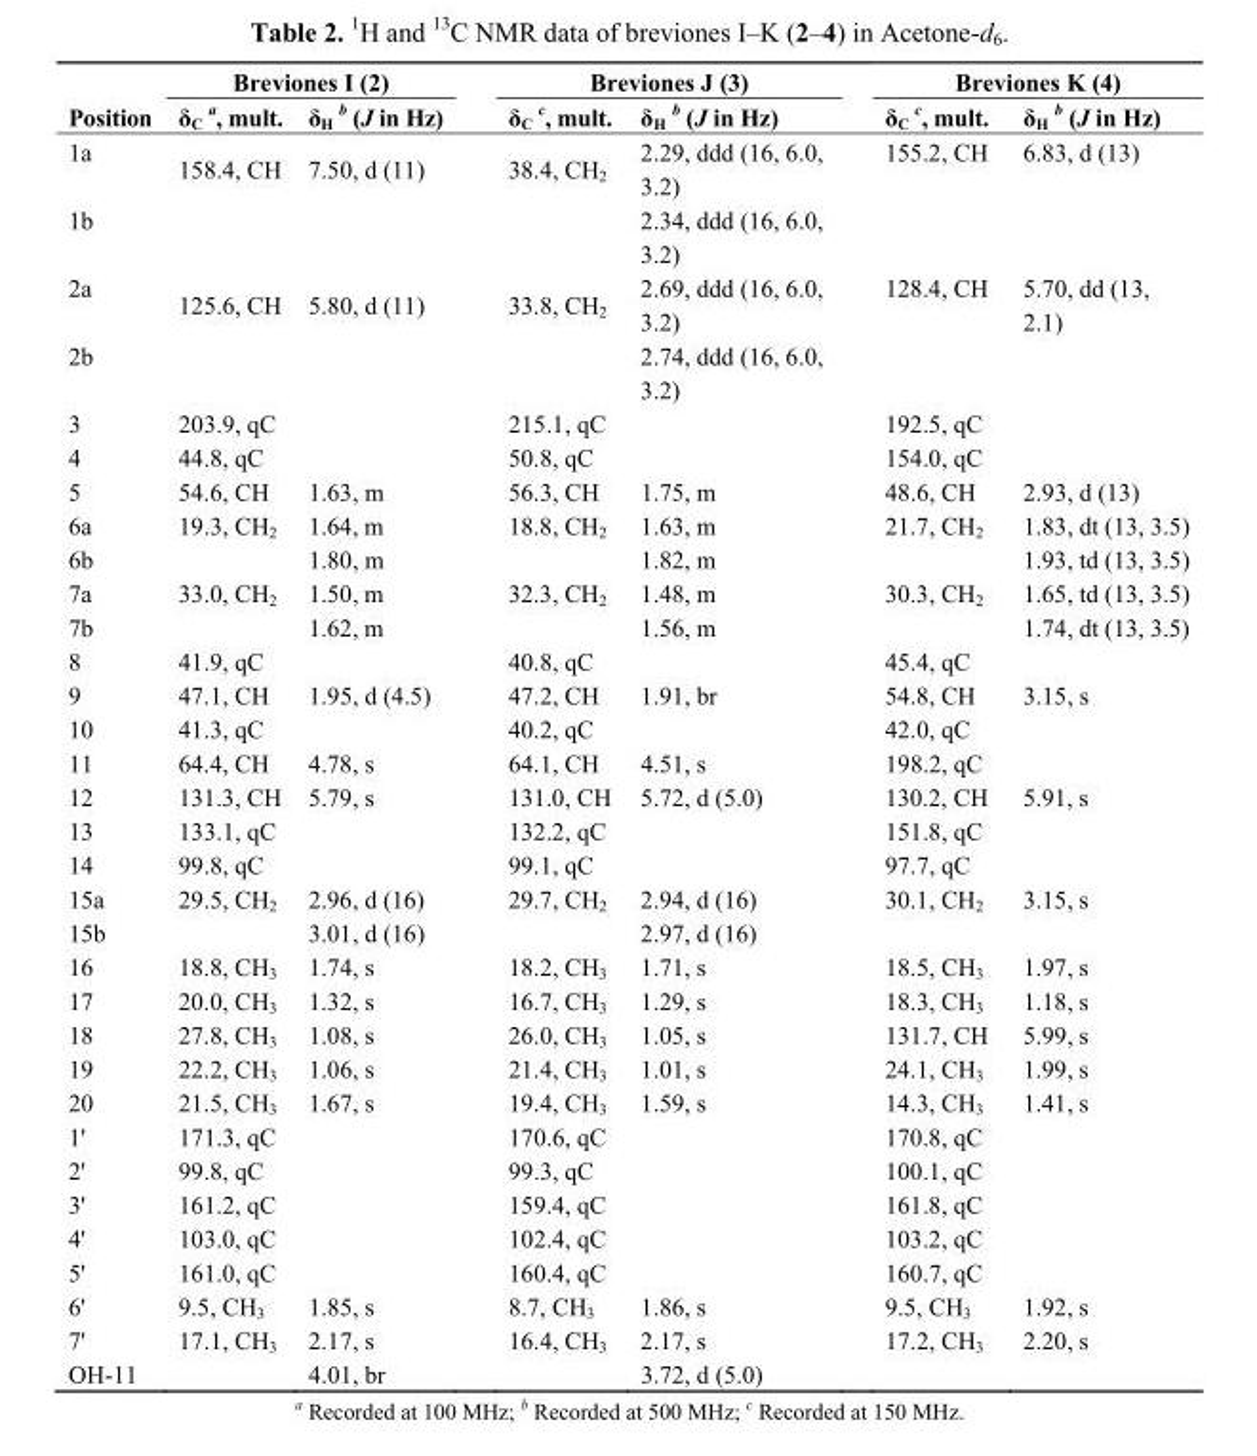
<table><thead><tr><td rowspan="2">Position</td><td colspan="2">Breviones I (2)</td><td colspan="2">Breviones J (3)</td><td colspan="2">Breviones K (4)</td></tr><tr><td>δ<sub>C</sub> <sup>a</sup>, mult.</td><td>δ<sub>H</sub> <sup>b</sup> (J in Hz)</td><td>δ<sub>C</sub> <sup>c</sup>, mult.</td><td>δ<sub>H</sub> <sup>b</sup> (J in Hz)</td><td>δ<sub>C</sub> <sup>c</sup>, mult.</td><td>δ<sub>H</sub> <sup>b</sup> (J in Hz)</td></tr></thead><tbody><tr><td>1a</td><td>158.4, CH</td><td>7.50, d (11)</td><td>38.4, CH<sub>2</sub></td><td>2.29, ddd (16, 6.0, 3.2)</td><td>155.2, CH</td><td>6.83, d (13)</td></tr><tr><td>1b</td><td></td><td></td><td></td><td>2.34, ddd (16, 6.0, 3.2)</td><td></td><td></td></tr><tr><td>2a</td><td>125.6, CH</td><td>5.80, d (11)</td><td>33.8, CH<sub>2</sub></td><td>2.69, ddd (16, 6.0, 3.2)</td><td>128.4, CH</td><td>5.70, dd (13, 2.1)</td></tr><tr><td>2b</td><td></td><td></td><td></td><td>2.74, ddd (16, 6.0, 3.2)</td><td></td><td></td></tr><tr><td>3</td><td>203.9, qC</td><td></td><td>215.1, qC</td><td></td><td>192.5, qC</td><td></td></tr><tr><td>4</td><td>44.8, qC</td><td></td><td>50.8, qC</td><td></td><td>154.0, qC</td><td></td></tr><tr><td>5</td><td>54.6, CH</td><td>1.63, m</td><td>56.3, CH</td><td>1.75, m</td><td>48.6, CH</td><td>2.93, d (13)</td></tr><tr><td>6a</td><td>19.3, CH<sub>2</sub></td><td>1.64, m</td><td>18.8, CH<sub>2</sub></td><td>1.63, m</td><td>21.7, CH<sub>2</sub></td><td>1.83, dt (13, 3.5)</td></tr><tr><td>6b</td><td></td><td>1.80, m</td><td></td><td>1.82, m</td><td></td><td>1.93, td (13, 3.5)</td></tr><tr><td>7a</td><td>33.0, CH<sub>2</sub></td><td>1.50, m</td><td>32.3, CH<sub>2</sub></td><td>1.48, m</td><td>30.3, CH<sub>2</sub></td><td>1.65, td (13, 3.5)</td></tr><tr><td>7b</td><td></td><td>1.62, m</td><td></td><td>1.56, m</td><td></td><td>1.74, dt (13, 3.5)</td></tr><tr><td>8</td><td>41.9, qC</td><td></td><td>40.8, qC</td><td></td><td>45.4, qC</td><td></td></tr><tr><td>9</td><td>47.1, CH</td><td>1.95, d (4.5)</td><td>47.2, CH</td><td>1.91, br</td><td>54.8, CH</td><td>3.15, s</td></tr><tr><td>10</td><td>41.3, qC</td><td></td><td>40.2, qC</td><td></td><td>42.0, qC</td><td></td></tr><tr><td>11</td><td>64.4, CH</td><td>4.78, s</td><td>64.1, CH</td><td>4.51, s</td><td>198.2, qC</td><td></td></tr><tr><td>12</td><td>131.3, CH</td><td>5.79, s</td><td>131.0, CH</td><td>5.72, d (5.0)</td><td>130.2, CH</td><td>5.91, s</td></tr><tr><td>13</td><td>133.1, qC</td><td></td><td>132.2, qC</td><td></td><td>151.8, qC</td><td></td></tr><tr><td>14</td><td>99.8, qC</td><td></td><td>99.1, qC</td><td></td><td>97.7, qC</td><td></td></tr><tr><td>15a</td><td>29.5, CH<sub>2</sub></td><td>2.96, d (16)</td><td>29.7, CH<sub>2</sub></td><td>2.94, d (16)</td><td>30.1, CH<sub>2</sub></td><td>3.15, s</td></tr><tr><td>15b</td><td></td><td>3.01, d (16)</td><td></td><td>2.97, d (16)</td><td></td><td></td></tr><tr><td>16</td><td>18.8, CH<sub>3</sub></td><td>1.74, s</td><td>18.2, CH<sub>3</sub></td><td>1.71, s</td><td>18.5, CH<sub>3</sub></td><td>1.97, s</td></tr><tr><td>17</td><td>20.0, CH<sub>3</sub></td><td>1.32, s</td><td>16.7, CH<sub>3</sub></td><td>1.29, s</td><td>18.3, CH<sub>3</sub></td><td>1.18, s</td></tr><tr><td>18</td><td>27.8, CH<sub>3</sub></td><td>1.08, s</td><td>26.0, CH<sub>3</sub></td><td>1.05, s</td><td>131.7, CH</td><td>5.99, s</td></tr><tr><td>19</td><td>22.2, CH<sub>3</sub></td><td>1.06, s</td><td>21.4, CH<sub>3</sub></td><td>1.01, s</td><td>24.1, CH<sub>3</sub></td><td>1.99, s</td></tr><tr><td>20</td><td>21.5, CH<sub>3</sub></td><td>1.67, s</td><td>19.4, CH<sub>3</sub></td><td>1.59, s</td><td>14.3, CH<sub>3</sub></td><td>1.41, s</td></tr><tr><td>1&#x27;</td><td>171.3, qC</td><td></td><td>170.6, qC</td><td></td><td>170.8, qC</td><td></td></tr><tr><td>2&#x27;</td><td>99.8, qC</td><td></td><td>99.3, qC</td><td></td><td>100.1, qC</td><td></td></tr><tr><td>3&#x27;</td><td>161.2, qC</td><td></td><td>159.4, qC</td><td></td><td>161.8, qC</td><td></td></tr><tr><td>4&#x27;</td><td>103.0, qC</td><td></td><td>102.4, qC</td><td></td><td>103.2, qC</td><td></td></tr><tr><td>5&#x27;</td><td>161.0, qC</td><td></td><td>160.4, qC</td><td></td><td>160.7, qC</td><td></td></tr><tr><td>6&#x27;</td><td>9.5, CH<sub>3</sub></td><td>1.85, s</td><td>8.7, CH<sub>3</sub></td><td>1.86, s</td><td>9.5, CH<sub>3</sub></td><td>1.92, s</td></tr><tr><td>7&#x27;</td><td>17.1, CH<sub>3</sub></td><td>2.17, s</td><td>16.4, CH<sub>3</sub></td><td>2.17, s</td><td>17.2, CH<sub>3</sub></td><td>2.20, s</td></tr><tr><td>OH-11</td><td></td><td>4.01, br</td><td></td><td>3.72, d (5.0)</td><td></td><td></td></tr></tbody></table>